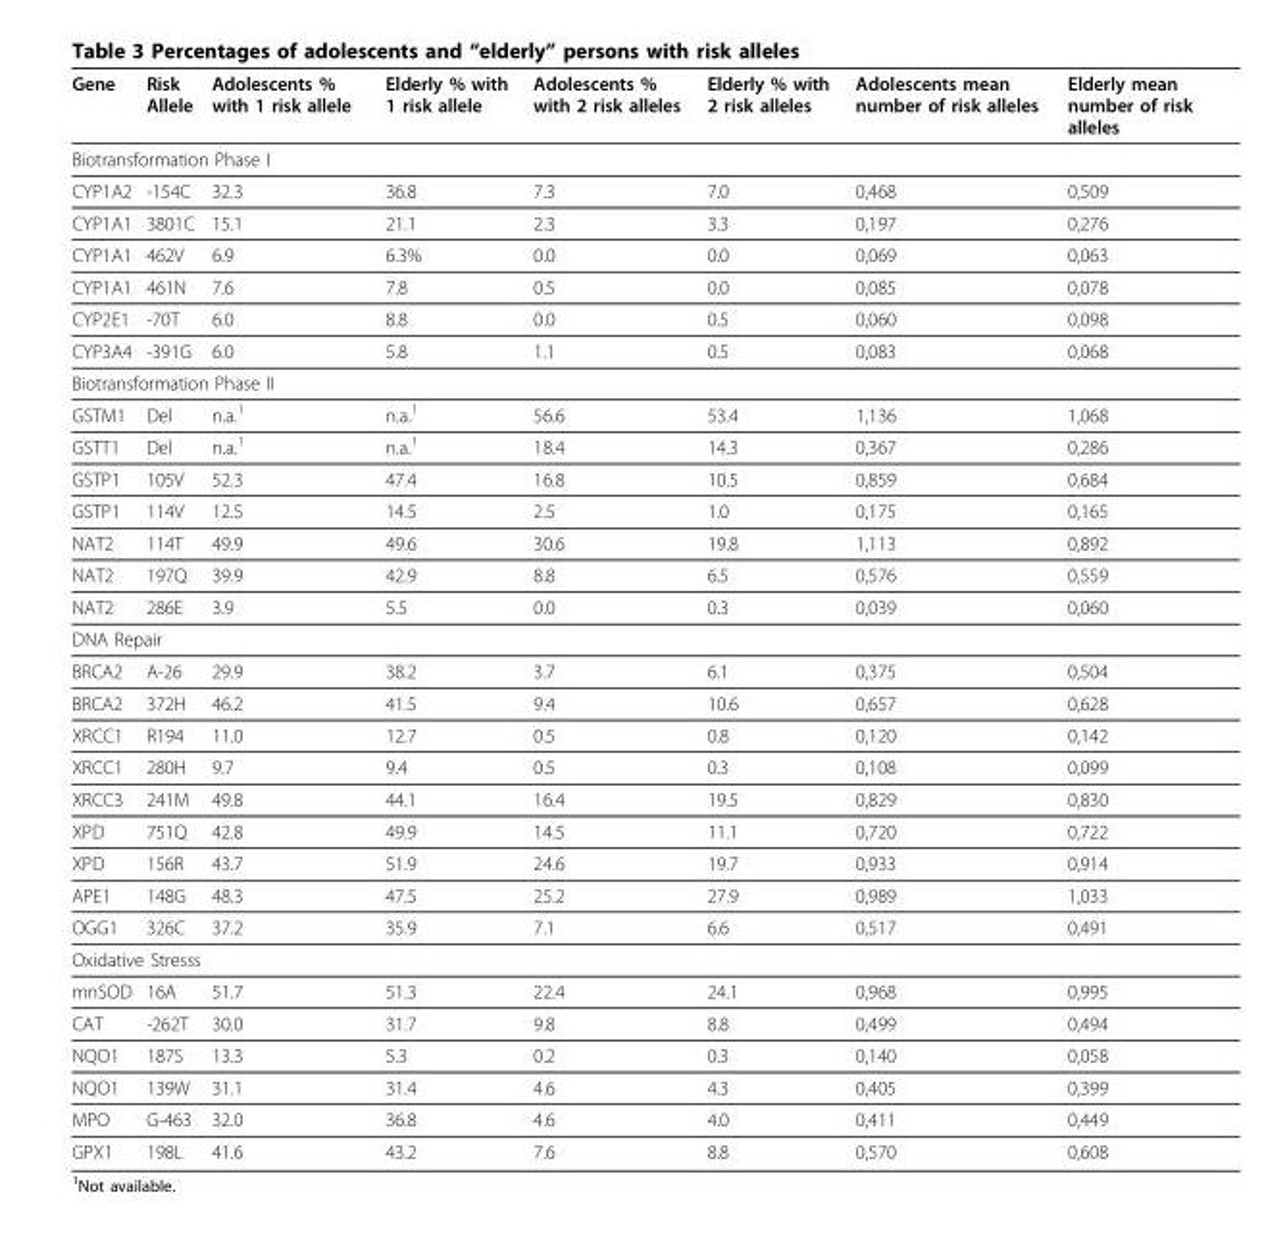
<table><thead><tr><td>Gene</td><td>Risk Allele</td><td>Adolescents % with 1 risk allele</td><td>Elderly % with 1 risk allele</td><td>Adolescents % with 2 risk alleles</td><td>Elderly % with 2 risk alleles</td><td>Adolescents mean number of risk alleles</td><td>Elderly mean number of risk alleles</td></tr></thead><tbody><tr><td colspan="8">Biotransformation Phase I</td></tr><tr><td>CYP1A2</td><td>-154C</td><td>32.3</td><td>36.8</td><td>7.3</td><td>7.0</td><td>0,468</td><td>0,509</td></tr><tr><td>CYP1A1</td><td>3801C</td><td>15.1</td><td>21.1</td><td>2.3</td><td>3.3</td><td>0,197</td><td>0,276</td></tr><tr><td>CYP1A1</td><td>462V</td><td>6.9</td><td>6.3%</td><td>0.0</td><td>0.0</td><td>0,069</td><td>0,063</td></tr><tr><td>CYP1A1</td><td>461N</td><td>7.6</td><td>7.8</td><td>0.5</td><td>0.0</td><td>0,085</td><td>0,078</td></tr><tr><td>CYP2E1</td><td>-70T</td><td>6.0</td><td>8.8</td><td>0.0</td><td>0.5</td><td>0,060</td><td>0,098</td></tr><tr><td>CYP3A4</td><td>-391G</td><td>6.0</td><td>5.8</td><td>1.1</td><td>0.5</td><td>0,083</td><td>0,068</td></tr><tr><td colspan="8">Biotransformation Phase II</td></tr><tr><td>GSTM1</td><td>Del</td><td>n.a.1</td><td>n.a.1</td><td>56.6</td><td>53.4</td><td>1,136</td><td>1,068</td></tr><tr><td>GSTT1</td><td>Del</td><td>n.a.1</td><td>n.a.1</td><td>18.4</td><td>14.3</td><td>0,367</td><td>0,286</td></tr><tr><td>GSTP1</td><td>105V</td><td>52.3</td><td>47.4</td><td>16.8</td><td>10.5</td><td>0,859</td><td>0,684</td></tr><tr><td>GSTP1</td><td>114V</td><td>12.5</td><td>14.5</td><td>2.5</td><td>1.0</td><td>0,175</td><td>0,165</td></tr><tr><td>NAT2</td><td>114T</td><td>49.9</td><td>49.6</td><td>30.6</td><td>19.8</td><td>1,113</td><td>0,892</td></tr><tr><td>NAT2</td><td>197Q</td><td>39.9</td><td>42.9</td><td>8.8</td><td>6.5</td><td>0,576</td><td>0,559</td></tr><tr><td>NAT2</td><td>286E</td><td>3.9</td><td>5.5</td><td>0.0</td><td>0.3</td><td>0,039</td><td>0,060</td></tr><tr><td colspan="8">DNA Repair</td></tr><tr><td>BRCA2</td><td>A-26</td><td>29.9</td><td>38.2</td><td>3.7</td><td>6.1</td><td>0,375</td><td>0,504</td></tr><tr><td>BRCA2</td><td>372H</td><td>46.2</td><td>41.5</td><td>9.4</td><td>10.6</td><td>0,657</td><td>0,628</td></tr><tr><td>XRCC1</td><td>R194</td><td>11.0</td><td>12.7</td><td>0.5</td><td>0.8</td><td>0,120</td><td>0,142</td></tr><tr><td>XRCC1</td><td>280H</td><td>9.7</td><td>9.4</td><td>0.5</td><td>0.3</td><td>0,108</td><td>0,099</td></tr><tr><td>XRCC3</td><td>241M</td><td>49.8</td><td>44.1</td><td>16.4</td><td>19.5</td><td>0,829</td><td>0,830</td></tr><tr><td>XPD</td><td>751Q</td><td>42.8</td><td>49.9</td><td>14.5</td><td>11.1</td><td>0,720</td><td>0,722</td></tr><tr><td>XPD</td><td>156R</td><td>43.7</td><td>51.9</td><td>24.6</td><td>19.7</td><td>0,933</td><td>0,914</td></tr><tr><td>APE1</td><td>148G</td><td>48.3</td><td>47.5</td><td>25.2</td><td>27.9</td><td>0,989</td><td>1,033</td></tr><tr><td>OGG1</td><td>326C</td><td>37.2</td><td>35.9</td><td>7.1</td><td>6.6</td><td>0,517</td><td>0,491</td></tr><tr><td colspan="8">Oxidative Stresss</td></tr><tr><td>mnSOD</td><td>16A</td><td>51.7</td><td>51.3</td><td>22.4</td><td>24.1</td><td>0,968</td><td>0,995</td></tr><tr><td>CAT</td><td>-262T</td><td>30.0</td><td>31.7</td><td>9.8</td><td>8.8</td><td>0,499</td><td>0,494</td></tr><tr><td>NQO1</td><td>187S</td><td>13.3</td><td>5.3</td><td>0.2</td><td>0.3</td><td>0,140</td><td>0,058</td></tr><tr><td>NQO1</td><td>139W</td><td>31.1</td><td>31.4</td><td>4.6</td><td>4.3</td><td>0,405</td><td>0,399</td></tr><tr><td>MPO</td><td>G-463</td><td>32.0</td><td>36.8</td><td>4.6</td><td>4.0</td><td>0,411</td><td>0,449</td></tr><tr><td>GPX1</td><td>198L</td><td>41.6</td><td>43.2</td><td>7.6</td><td>8.8</td><td>0,570</td><td>0,608</td></tr></tbody></table>